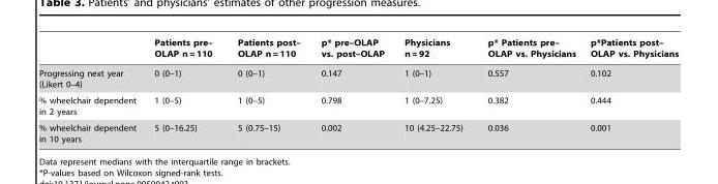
<table><thead><tr><td></td><td>Patients pre– OLAP n = 110</td><td>Patients post– OLAP n = 110</td><td>p* pre–OLAP vs. post–OLAP</td><td>Physicians n = 92</td><td>p* Patients pre– OLAP vs. Physicians</td><td>p*Patients post– OLAP vs. Physicians</td></tr></thead><tbody><tr><td>Progressing next year (Likert 0–4)</td><td>0 (0–1)</td><td>0 (0–1)</td><td>0.147</td><td>1 (0–1)</td><td>0.557</td><td>0.102</td></tr><tr><td>% wheelchair dependent in 2 years</td><td>1 (0–5)</td><td>1 (0–5)</td><td>0.798</td><td>1 (0–7.25)</td><td>0.382</td><td>0.444</td></tr><tr><td>% wheelchair dependent in 10 years</td><td>5 (0–16.25)</td><td>5 (0.75–15)</td><td>0.002</td><td>10 (4.25–22.75)</td><td>0.036</td><td>0.001</td></tr></tbody></table>